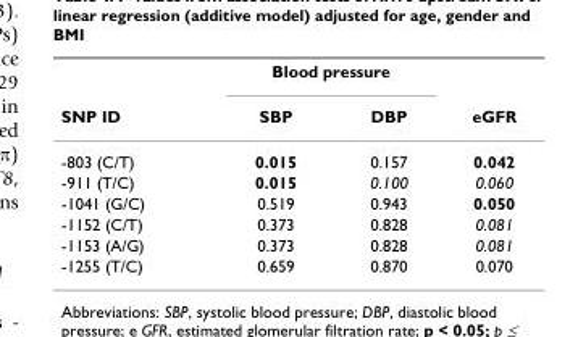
<table><thead><tr><td rowspan="2">SNP ID</td><td colspan="2">Blood pressure</td><td rowspan="2">eGFR</td></tr><tr><td>SBP</td><td>DBP</td></tr></thead><tbody><tr><td>-803 (C/T)</td><td>0.015</td><td>0.157</td><td>0.042</td></tr><tr><td>-911 (T/C)</td><td>0.015</td><td>0.100</td><td>0.060</td></tr><tr><td>-1041 (G/C)</td><td>0.519</td><td>0.943</td><td>0.050</td></tr><tr><td>-1152 (C/T)</td><td>0.373</td><td>0.828</td><td>0.081</td></tr><tr><td>-1153 (A/G)</td><td>0.373</td><td>0.828</td><td>0.081</td></tr><tr><td>-1255 (T/C)</td><td>0.659</td><td>0.870</td><td>0.070</td></tr></tbody></table>